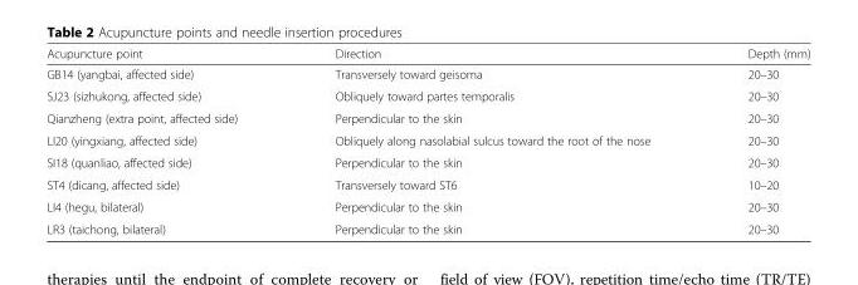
<table><thead><tr><td>Acupuncture point</td><td>Direction</td><td>Depth (mm)</td></tr></thead><tbody><tr><td>GB14 (yangbai, affected side)</td><td>Transversely toward geisoma</td><td>20–30</td></tr><tr><td>SJ23 (sizhukong, affected side)</td><td>Obliquely toward partes temporalis</td><td>20–30</td></tr><tr><td>Qianzheng (extra point, affected side)</td><td>Perpendicular to the skin</td><td>20–30</td></tr><tr><td>LI20 (yingxiang, affected side)</td><td>Obliquely along nasolabial sulcus toward the root of the nose</td><td>20–30</td></tr><tr><td>SI18 (quanliao, affected side)</td><td>Perpendicular to the skin</td><td>20–30</td></tr><tr><td>ST4 (dicang, affected side)</td><td>Transversely toward ST6</td><td>10–20</td></tr><tr><td>LI4 (hegu, bilateral)</td><td>Perpendicular to the skin</td><td>20–30</td></tr><tr><td>LR3 (taichong, bilateral)</td><td>Perpendicular to the skin</td><td>20–30</td></tr></tbody></table>